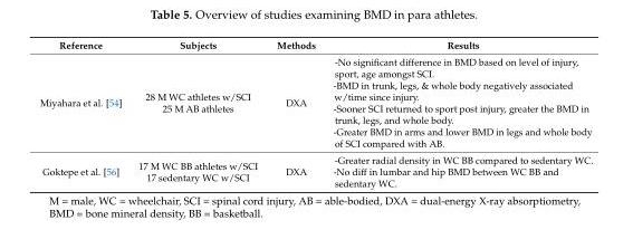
<table><thead><tr><td>Reference</td><td>Subjects</td><td>Methods</td><td>Results</td></tr></thead><tbody><tr><td>Miyahara et al. [54]</td><td>28 M WC athletes w/SCI 25 M AB athletes</td><td>DXA</td><td>-No significant difference in BMD based on level of injury, sport, age amongst SCI. -BMD in trunk, legs, &amp; whole body negatively associated w/time since injury. -Sooner SCI returned to sport post injury, greater the BMD in trunk, legs, and whole body. -Greater BMD in arms and lower BMD in legs and whole body of SCI compared with AB.</td></tr><tr><td>Goktepe et al. [56]</td><td>17 M WC BB athletes w/SCI 17 sedentary WC w/SCI</td><td>DXA</td><td>-Greater radial density in WC BB compared to sedentary WC. -No diff in lumbar and hip BMD between WC BB and sedentary WC.</td></tr></tbody></table>